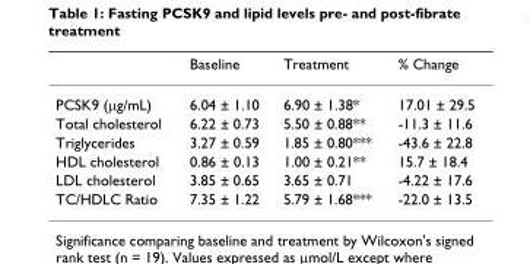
<table><thead><tr><td></td><td>Baseline</td><td>Treatment</td><td>% Change</td></tr></thead><tbody><tr><td>PCSK9 (μg/mL)</td><td>6.04 ± 1.10</td><td>6.90 ± 1.38*</td><td>17.01 ± 29.5</td></tr><tr><td>Total cholesterol</td><td>6.22 ± 0.73</td><td>5.50 ± 0.88**</td><td>-11.3 ± 11.6</td></tr><tr><td>Triglycerides</td><td>3.27 ± 0.59</td><td>1.85 ± 0.80***</td><td>-43.6 ± 22.8</td></tr><tr><td>HDL cholesterol</td><td>0.86 ± 0.13</td><td>1.00 ± 0.21**</td><td>15.7 ± 18.4</td></tr><tr><td>LDL cholesterol</td><td>3.85 ± 0.65</td><td>3.65 ± 0.71</td><td>-4.22 ± 17.6</td></tr><tr><td>TC/HDLC Ratio</td><td>7.35 ± 1.22</td><td>5.79 ± 1.68***</td><td>-22.0 ± 13.5</td></tr></tbody></table>